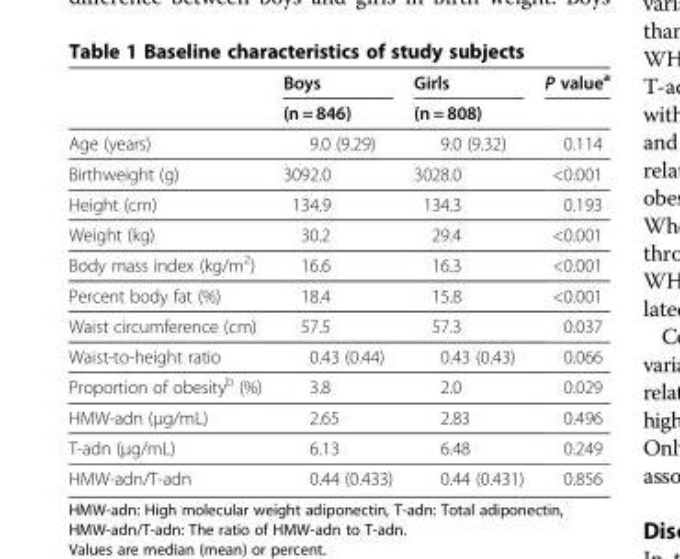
<table><thead><tr><td rowspan="2"></td><td rowspan="2">Boys (n = 846)</td><td rowspan="2">Girls (n = 808)</td><td rowspan="2">P value<sup>a</sup></td></tr><tr></tr></thead><tbody><tr><td>Age (years)</td><td>9.0 (9.29)</td><td>9.0 (9.32)</td><td>0.114</td></tr><tr><td>Birthweight (g)</td><td>3092.0</td><td>3028.0</td><td>&lt;0.001</td></tr><tr><td>Height (cm)</td><td>134.9</td><td>134.3</td><td>0.193</td></tr><tr><td>Weight (kg)</td><td>30.2</td><td>29.4</td><td>&lt;0.001</td></tr><tr><td>Body mass index (kg/m<sup>2</sup>)</td><td>16.6</td><td>16.3</td><td>&lt;0.001</td></tr><tr><td>Percent body fat (%)</td><td>18.4</td><td>15.8</td><td>&lt;0.001</td></tr><tr><td>Waist circumference (cm)</td><td>57.5</td><td>57.3</td><td>0.037</td></tr><tr><td>Waist-to-height ratio</td><td>0.43 (0.44)</td><td>0.43 (0.43)</td><td>0.066</td></tr><tr><td>Proportion of obesity<sup>b</sup> (%)</td><td>3.8</td><td>2.0</td><td>0.029</td></tr><tr><td>HMW-adn (μg/mL)</td><td>2.65</td><td>2.83</td><td>0.496</td></tr><tr><td>T-adn (μg/mL)</td><td>6.13</td><td>6.48</td><td>0.249</td></tr><tr><td>HMW-adn/T-adn</td><td>0.44 (0.433)</td><td>0.44 (0.431)</td><td>0.856</td></tr></tbody></table>